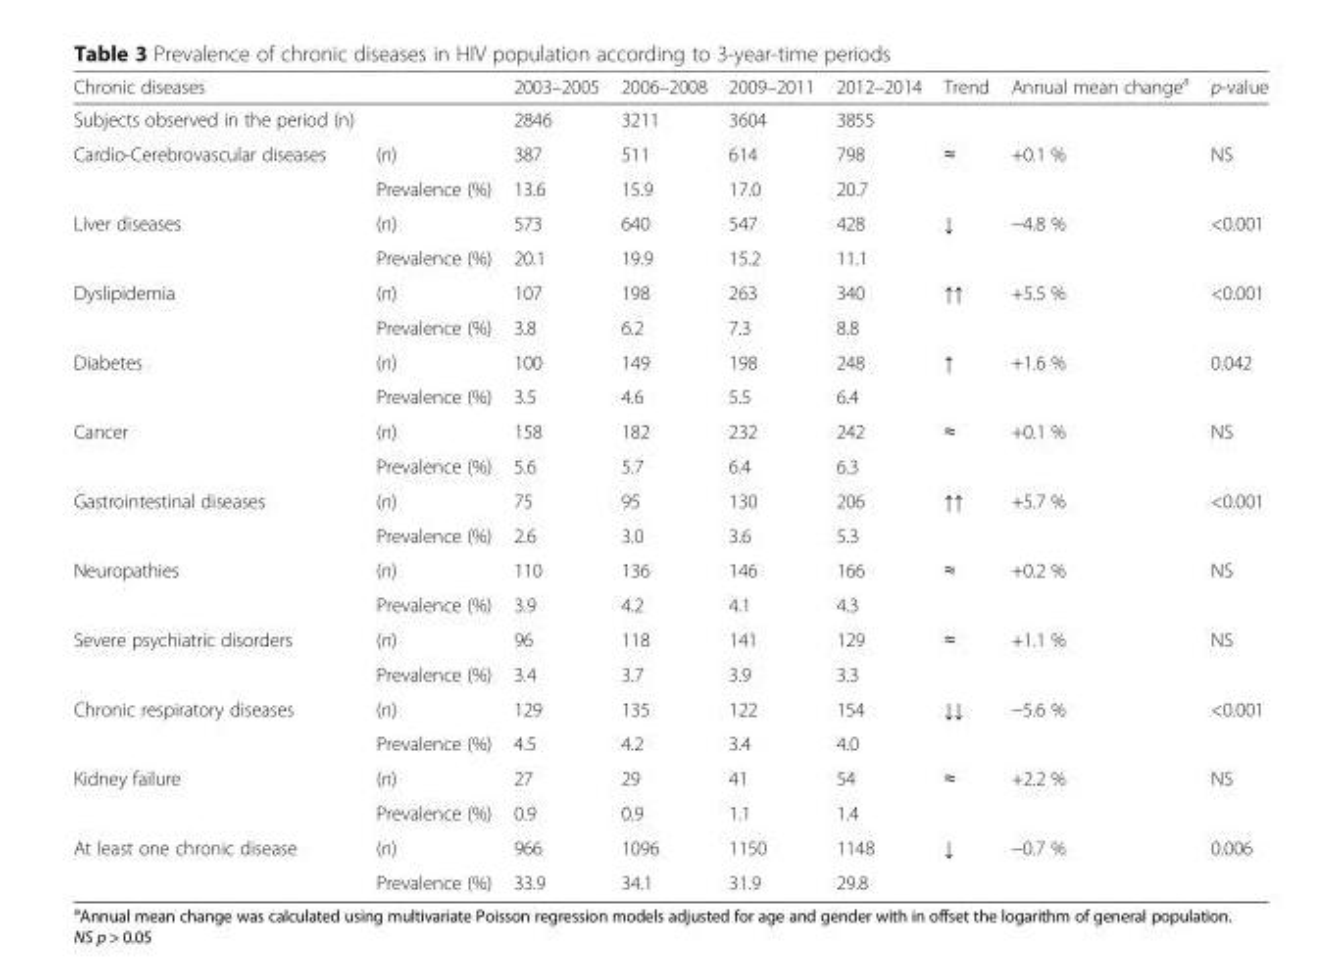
<table><thead><tr><td colspan="2">Chronic diseases</td><td rowspan="2">2003–2005 2846</td><td rowspan="2">2006–2008 3211</td><td rowspan="2">2009–2011 3604</td><td rowspan="2">2012–2014 3855</td><td rowspan="2">Trend</td><td rowspan="2">Annual mean change<sup>a</sup></td><td rowspan="2">p-value</td></tr><tr><td>Subjects observed in the period (n)</td><td></td></tr></thead><tbody><tr><td rowspan="2">Cardio-Cerebrovascular diseases</td><td>(n)</td><td>387</td><td>511</td><td>614</td><td>798</td><td rowspan="2">≈</td><td rowspan="2">+0.1 %</td><td rowspan="2">NS</td></tr><tr><td>Prevalence (%)</td><td>13.6</td><td>15.9</td><td>17.0</td><td>20.7</td></tr><tr><td rowspan="2">Liver diseases</td><td>(n)</td><td>573</td><td>640</td><td>547</td><td>428</td><td rowspan="2">↓</td><td rowspan="2">−4.8 %</td><td rowspan="2">&lt;0.001</td></tr><tr><td>Prevalence (%)</td><td>20.1</td><td>19.9</td><td>15.2</td><td>11.1</td></tr><tr><td rowspan="2">Dyslipidemia</td><td>(n)</td><td>107</td><td>198</td><td>263</td><td>340</td><td rowspan="2">↑↑</td><td rowspan="2">+5.5 %</td><td rowspan="2">&lt;0.001</td></tr><tr><td>Prevalence (%)</td><td>3.8</td><td>6.2</td><td>7.3</td><td>8.8</td></tr><tr><td rowspan="2">Diabetes</td><td>(n)</td><td>100</td><td>149</td><td>198</td><td>248</td><td rowspan="2">↑</td><td rowspan="2">+1.6 %</td><td rowspan="2">0.042</td></tr><tr><td>Prevalence (%)</td><td>3.5</td><td>4.6</td><td>5.5</td><td>6.4</td></tr><tr><td rowspan="2">Cancer</td><td>(n)</td><td>158</td><td>182</td><td>232</td><td>242</td><td rowspan="2">≈</td><td rowspan="2">+0.1 %</td><td rowspan="2">NS</td></tr><tr><td>Prevalence (%)</td><td>5.6</td><td>5.7</td><td>6.4</td><td>6.3</td></tr><tr><td rowspan="2">Gastrointestinal diseases</td><td>(n)</td><td>75</td><td>95</td><td>130</td><td>206</td><td rowspan="2">↑↑</td><td rowspan="2">+5.7 %</td><td rowspan="2">&lt;0.001</td></tr><tr><td>Prevalence (%)</td><td>2.6</td><td>3.0</td><td>3.6</td><td>5.3</td></tr><tr><td rowspan="2">Neuropathies</td><td>(n)</td><td>110</td><td>136</td><td>146</td><td>166</td><td rowspan="2">≈</td><td rowspan="2">+0.2 %</td><td rowspan="2">NS</td></tr><tr><td>Prevalence (%)</td><td>3.9</td><td>4.2</td><td>4.1</td><td>4.3</td></tr><tr><td rowspan="2">Severe psychiatric disorders</td><td>(n)</td><td>96</td><td>118</td><td>141</td><td>129</td><td rowspan="2">≈</td><td rowspan="2">+1.1 %</td><td rowspan="2">NS</td></tr><tr><td>Prevalence (%)</td><td>3.4</td><td>3.7</td><td>3.9</td><td>3.3</td></tr><tr><td rowspan="2">Chronic respiratory diseases</td><td>(n)</td><td>129</td><td>135</td><td>122</td><td>154</td><td rowspan="2">↓↓</td><td rowspan="2">−5.6 %</td><td rowspan="2">&lt;0.001</td></tr><tr><td>Prevalence (%)</td><td>4.5</td><td>4.2</td><td>3.4</td><td>4.0</td></tr><tr><td rowspan="2">Kidney failure</td><td>(n)</td><td>27</td><td>29</td><td>41</td><td>54</td><td rowspan="2">≈</td><td rowspan="2">+2.2 %</td><td rowspan="2">NS</td></tr><tr><td>Prevalence (%)</td><td>0.9</td><td>0.9</td><td>1.1</td><td>1.4</td></tr><tr><td rowspan="2">At least one chronic disease</td><td>(n)</td><td>966</td><td>1096</td><td>1150</td><td>1148</td><td rowspan="2">↓</td><td rowspan="2">−0.7 %</td><td rowspan="2">0.006</td></tr><tr><td>Prevalence (%)</td><td>33.9</td><td>34.1</td><td>31.9</td><td>29.8</td></tr></tbody></table>